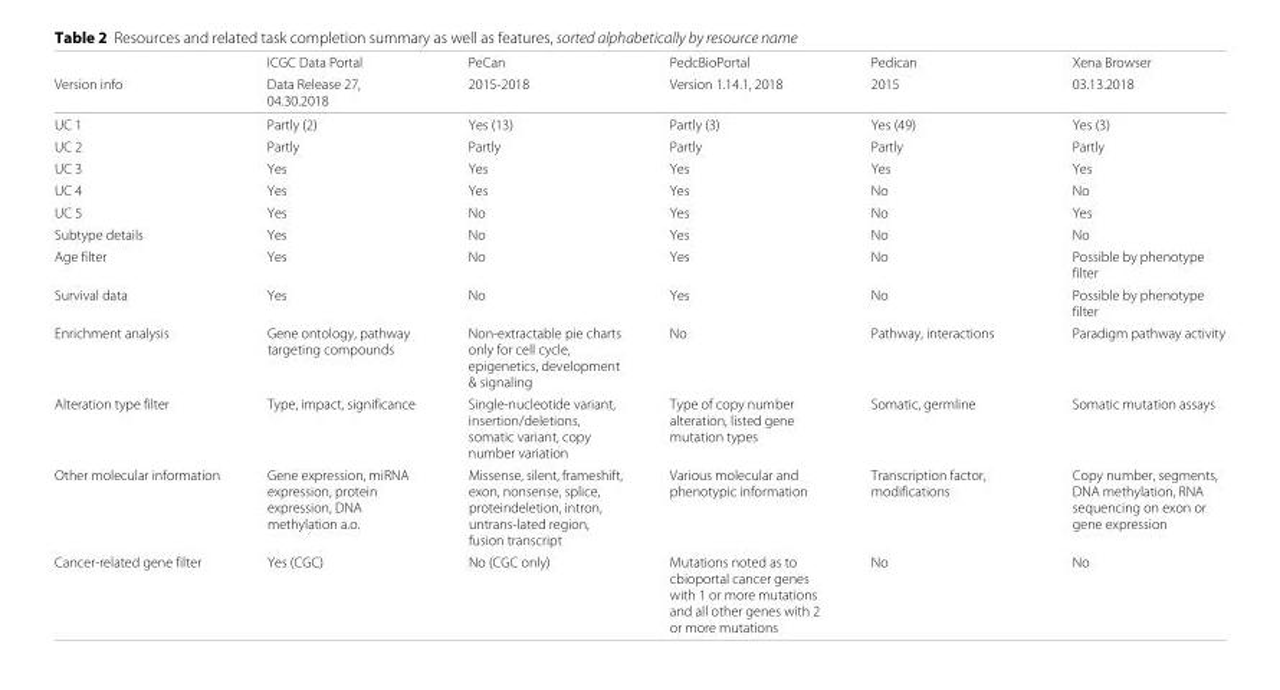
<table><thead><tr><td rowspan="2">Version info</td><td rowspan="2">ICGC Data Portal Data Release 27, 04.30.2018</td><td rowspan="2">PeCan 2015-2018</td><td rowspan="2">PedcBioPortal Version 1.14.1, 2018</td><td rowspan="2">Pedican 2015</td><td rowspan="2">Xena Browser 03.13.2018</td></tr><tr></tr></thead><tbody><tr><td>UC 1</td><td>Partly (2)</td><td>Yes (13)</td><td>Partly (3)</td><td>Yes (49)</td><td>Yes (3)</td></tr><tr><td>UC 2</td><td>Partly</td><td>Partly</td><td>Partly</td><td>Partly</td><td>Partly</td></tr><tr><td>UC 3</td><td>Yes</td><td>Yes</td><td>Yes</td><td>Yes</td><td>Yes</td></tr><tr><td>UC 4</td><td>Yes</td><td>Yes</td><td>Yes</td><td>No</td><td>No</td></tr><tr><td>UC 5</td><td>Yes</td><td>No</td><td>Yes</td><td>No</td><td>Yes</td></tr><tr><td>Subtype details</td><td>Yes</td><td>No</td><td>Yes</td><td>No</td><td>No</td></tr><tr><td>Age filter</td><td>Yes</td><td>No</td><td>Yes</td><td>No</td><td>Possible by phenotype filter</td></tr><tr><td>Survival data</td><td>Yes</td><td>No</td><td>Yes</td><td>No</td><td>Possible by phenotype filter</td></tr><tr><td>Enrichment analysis</td><td>Gene ontology, pathway targeting compounds</td><td>Non-extractable pie charts only for cell cycle, epigenetics, development &amp; signaling</td><td>No</td><td>Pathway, interactions</td><td>Paradigm pathway activity</td></tr><tr><td>Alteration type filter</td><td>Type, impact, significance</td><td>Single-nucleotide variant, insertion/deletions, somatic variant, copy number variation</td><td>Type of copy number alteration, listed gene mutation types</td><td>Somatic, germline</td><td>Somatic mutation assays</td></tr><tr><td>Other molecular information</td><td>Gene expression, miRNA expression, protein expression, DNA methylation a.o.</td><td>Missense, silent, frameshift, exon, nonsense, splice, proteindeletion, intron, untrans-lated region, fusion transcript</td><td>Various molecular and phenotypic information</td><td>Transcription factor, modifications</td><td>Copy number, segments, DNA methylation, RNA sequencing on exon or gene expression</td></tr><tr><td>Cancer-related gene filter</td><td>Yes (CGC)</td><td>No (CGC only)</td><td>Mutations noted as to cbioportal cancer genes with 1 or more mutations and all other genes with 2 or more mutations</td><td>No</td><td>No</td></tr></tbody></table>